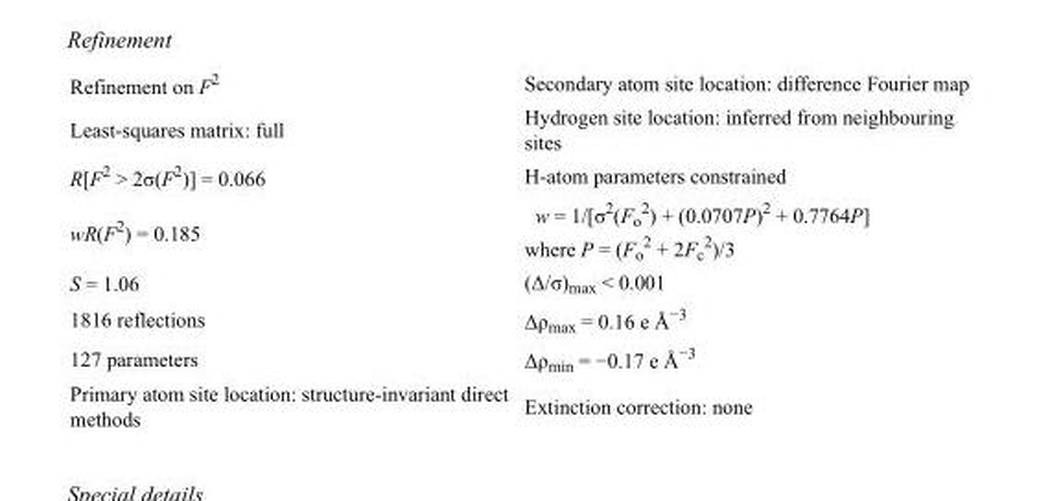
<table><tbody><tr><td>Refinement on F<sup>2</sup></td><td>Secondary atom site location: difference Fourier map</td></tr><tr><td>Least-squares matrix: full</td><td>Hydrogen site location: inferred from neighbouring sites</td></tr><tr><td>R[F<sup>2</sup> &gt; 2σ(F<sup>2</sup>)] = 0.066</td><td>H-atom parameters constrained</td></tr><tr><td>wR(F<sup>2</sup>) = 0.185</td><td>w = 1/[σ<sup>2</sup>(F<sub>o</sub> <sup>2</sup>) + (0.0707P)<sup>2</sup> + 0.7764P] where P = (F<sub>o</sub> <sup>2</sup> + 2F<sub>c</sub> <sup>2</sup>)/3</td></tr><tr><td>S = 1.06</td><td>(Δ/σ)<sub>max</sub> &lt; 0.001</td></tr><tr><td>1816 reflections</td><td>Δρ<sub>max</sub> = 0.16 e Å<sup>−3</sup></td></tr><tr><td>127 parameters</td><td>Δρ<sub>min</sub> = −0.17 e Å<sup>−3</sup></td></tr><tr><td>Primary atom site location: structure-invariant direct methods</td><td>Extinction correction: none</td></tr></tbody></table>